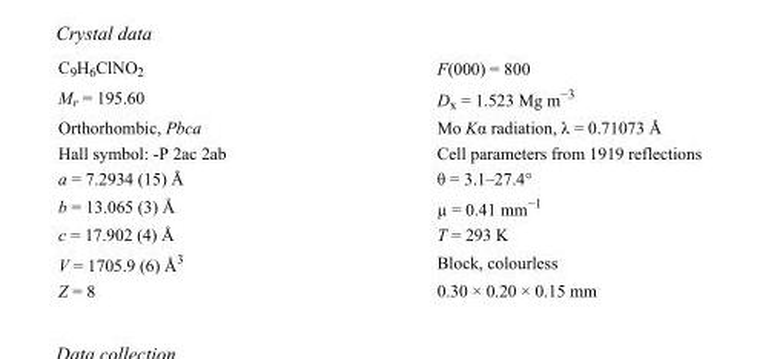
<table><tbody><tr><td>C<sub>9</sub>H<sub>6</sub>ClNO<sub>2</sub></td><td>F(000) = 800</td></tr><tr><td>M<sub>r</sub> = 195.60</td><td>D<sub>x</sub> = 1.523 Mg m<sup>−3</sup></td></tr><tr><td>Orthorhombic, Pbca</td><td>Mo Kα radiation, λ = 0.71073 Å</td></tr><tr><td>Hall symbol: -P 2ac 2ab</td><td>Cell parameters from 1919 reflections</td></tr><tr><td>a = 7.2934 (15) Å</td><td>θ = 3.1–27.4°</td></tr><tr><td>b = 13.065 (3) Å</td><td>µ = 0.41 mm<sup>−1</sup></td></tr><tr><td>c = 17.902 (4) Å</td><td>T = 293 K</td></tr><tr><td>V = 1705.9 (6) Å<sup>3</sup></td><td>Block, colourless</td></tr><tr><td>Z = 8</td><td>0.30 × 0.20 × 0.15 mm</td></tr></tbody></table>